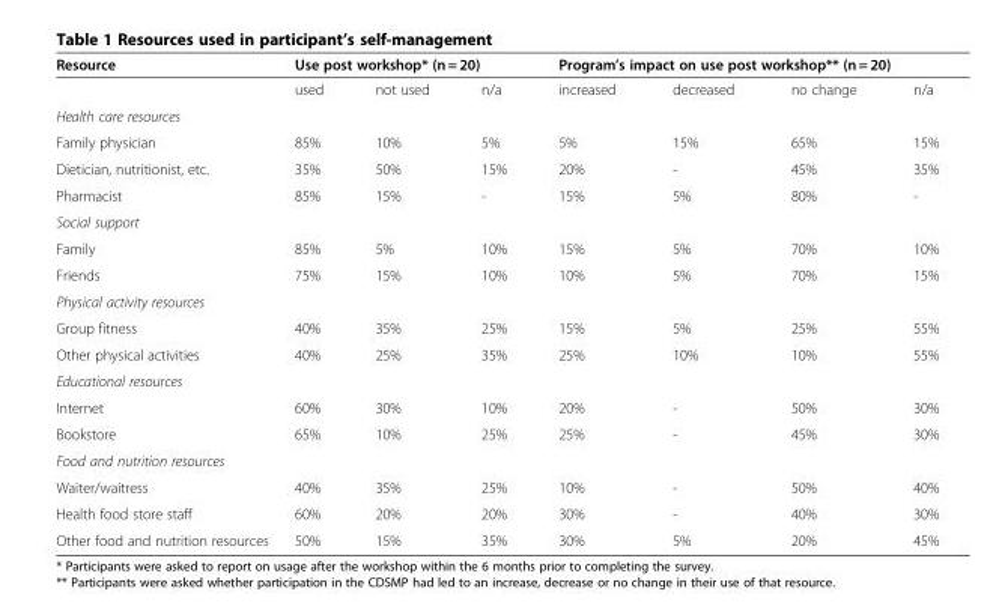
<table><thead><tr><td rowspan="2">Resource</td><td colspan="3">Use post workshop* (n = 20)</td><td colspan="4">Program’s impact on use post workshop** (n = 20)</td></tr><tr><td>used</td><td>not used</td><td>n/a</td><td>increased</td><td>decreased</td><td>no change</td><td>n/a</td></tr></thead><tbody><tr><td colspan="8">Health care resources</td></tr><tr><td>Family physician</td><td>85%</td><td>10%</td><td>5%</td><td>5%</td><td>15%</td><td>65%</td><td>15%</td></tr><tr><td>Dietician, nutritionist, etc.</td><td>35%</td><td>50%</td><td>15%</td><td>20%</td><td>-</td><td>45%</td><td>35%</td></tr><tr><td>Pharmacist</td><td>85%</td><td>15%</td><td>-</td><td>15%</td><td>5%</td><td>80%</td><td>-</td></tr><tr><td colspan="8">Social support</td></tr><tr><td>Family</td><td>85%</td><td>5%</td><td>10%</td><td>15%</td><td>5%</td><td>70%</td><td>10%</td></tr><tr><td>Friends</td><td>75%</td><td>15%</td><td>10%</td><td>10%</td><td>5%</td><td>70%</td><td>15%</td></tr><tr><td colspan="8">Physical activity resources</td></tr><tr><td>Group fitness</td><td>40%</td><td>35%</td><td>25%</td><td>15%</td><td>5%</td><td>25%</td><td>55%</td></tr><tr><td>Other physical activities</td><td>40%</td><td>25%</td><td>35%</td><td>25%</td><td>10%</td><td>10%</td><td>55%</td></tr><tr><td colspan="8">Educational resources</td></tr><tr><td>Internet</td><td>60%</td><td>30%</td><td>10%</td><td>20%</td><td>-</td><td>50%</td><td>30%</td></tr><tr><td>Bookstore</td><td>65%</td><td>10%</td><td>25%</td><td>25%</td><td>-</td><td>45%</td><td>30%</td></tr><tr><td colspan="8">Food and nutrition resources</td></tr><tr><td>Waiter/waitress</td><td>40%</td><td>35%</td><td>25%</td><td>10%</td><td>-</td><td>50%</td><td>40%</td></tr><tr><td>Health food store staff</td><td>60%</td><td>20%</td><td>20%</td><td>30%</td><td>-</td><td>40%</td><td>30%</td></tr><tr><td>Other food and nutrition resources</td><td>50%</td><td>15%</td><td>35%</td><td>30%</td><td>5%</td><td>20%</td><td>45%</td></tr></tbody></table>